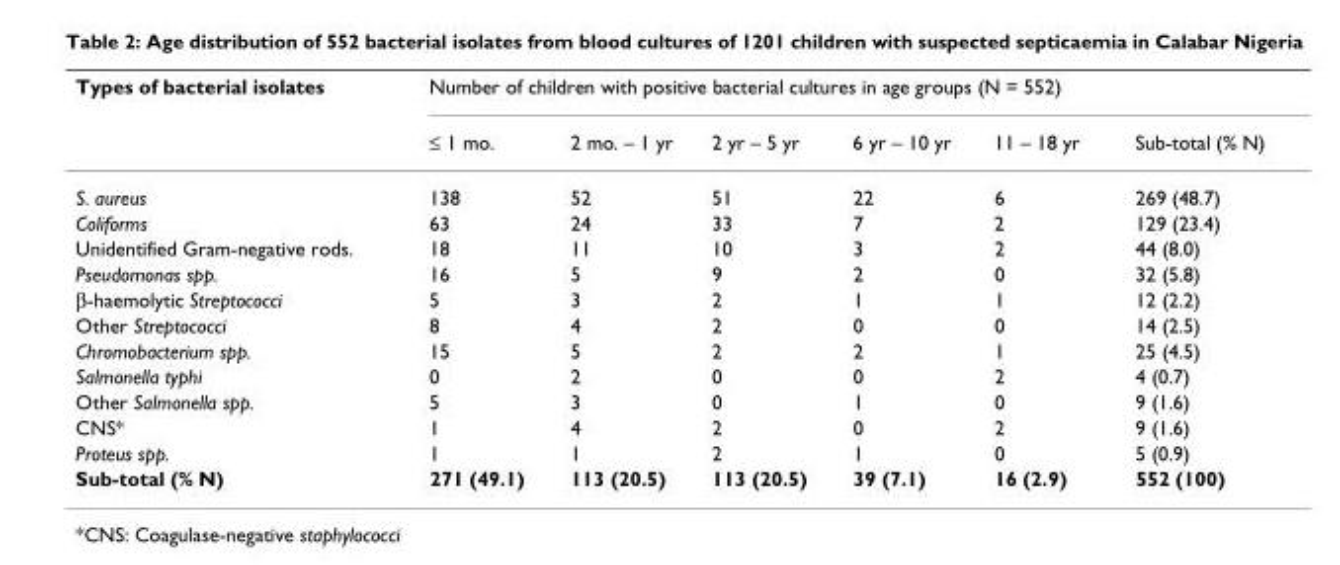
<table><thead><tr><td rowspan="2">Types of bacterial isolates</td><td colspan="6">Number of children with positive bacterial cultures in age groups (N = 552)</td></tr><tr><td>≤ 1 mo.</td><td>2 mo. – 1 yr</td><td>2 yr – 5 yr</td><td>6 yr – 10 yr</td><td>11 – 18 yr</td><td>Sub-total (% N)</td></tr></thead><tbody><tr><td>S. aureus</td><td>138</td><td>52</td><td>51</td><td>22</td><td>6</td><td>269 (48.7)</td></tr><tr><td>Coliforms</td><td>63</td><td>24</td><td>33</td><td>7</td><td>2</td><td>129 (23.4)</td></tr><tr><td>Unidentified Gram-negative rods.</td><td>18</td><td>11</td><td>10</td><td>3</td><td>2</td><td>44 (8.0)</td></tr><tr><td>Pseudomonas spp.</td><td>16</td><td>5</td><td>9</td><td>2</td><td>0</td><td>32 (5.8)</td></tr><tr><td>β-haemolytic Streptococci</td><td>5</td><td>3</td><td>2</td><td>1</td><td>1</td><td>12 (2.2)</td></tr><tr><td>Other Streptococci</td><td>8</td><td>4</td><td>2</td><td>0</td><td>0</td><td>14 (2.5)</td></tr><tr><td>Chromobacterium spp.</td><td>15</td><td>5</td><td>2</td><td>2</td><td>1</td><td>25 (4.5)</td></tr><tr><td>Salmonella typhi</td><td>0</td><td>2</td><td>0</td><td>0</td><td>2</td><td>4 (0.7)</td></tr><tr><td>Other Salmonella spp.</td><td>5</td><td>3</td><td>0</td><td>1</td><td>0</td><td>9 (1.6)</td></tr><tr><td>CNS*</td><td>1</td><td>4</td><td>2</td><td>0</td><td>2</td><td>9 (1.6)</td></tr><tr><td>Proteus spp.</td><td>1</td><td>1</td><td>2</td><td>1</td><td>0</td><td>5 (0.9)</td></tr><tr><td>Sub-total (% N)</td><td>271 (49.1)</td><td>113 (20.5)</td><td>113 (20.5)</td><td>39 (7.1)</td><td>16 (2.9)</td><td>552 (100)</td></tr></tbody></table>